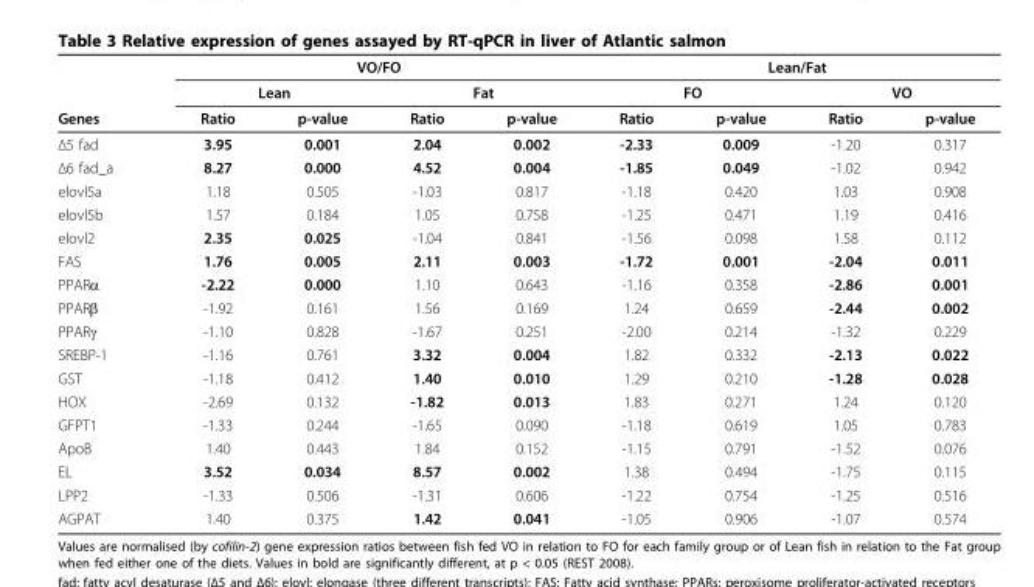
<table><thead><tr><td rowspan="3">Genes</td><td colspan="4">VO/FO</td><td colspan="4">Lean/Fat</td></tr><tr><td colspan="2">Lean</td><td colspan="2">Fat</td><td colspan="2">FO</td><td colspan="2">VO</td></tr><tr><td>Ratio</td><td>p-value</td><td>Ratio</td><td>p-value</td><td>Ratio</td><td>p-value</td><td>Ratio</td><td>p-value</td></tr></thead><tbody><tr><td>Δ5 fad</td><td>3.95</td><td>0.001</td><td>2.04</td><td>0.002</td><td>-2.33</td><td>0.009</td><td>-1.20</td><td>0.317</td></tr><tr><td>Δ6 fad_a</td><td>8.27</td><td>0.000</td><td>4.52</td><td>0.004</td><td>-1.85</td><td>0.049</td><td>-1.02</td><td>0.942</td></tr><tr><td>elovl5a</td><td>1.18</td><td>0.505</td><td>-1.03</td><td>0.817</td><td>-1.18</td><td>0.420</td><td>1.03</td><td>0.908</td></tr><tr><td>elovl5b</td><td>1.57</td><td>0.184</td><td>1.05</td><td>0.758</td><td>-1.25</td><td>0.471</td><td>1.19</td><td>0.416</td></tr><tr><td>elovl2</td><td>2.35</td><td>0.025</td><td>-1.04</td><td>0.841</td><td>-1.56</td><td>0.098</td><td>1.58</td><td>0.112</td></tr><tr><td>FAS</td><td>1.76</td><td>0.005</td><td>2.11</td><td>0.003</td><td>-1.72</td><td>0.001</td><td>-2.04</td><td>0.011</td></tr><tr><td>PPARα</td><td>-2.22</td><td>0.000</td><td>1.10</td><td>0.643</td><td>-1.16</td><td>0.358</td><td>-2.86</td><td>0.001</td></tr><tr><td>PPARβ</td><td>-1.92</td><td>0.161</td><td>1.56</td><td>0.169</td><td>1.24</td><td>0.659</td><td>-2.44</td><td>0.002</td></tr><tr><td>PPARγ</td><td>-1.10</td><td>0.828</td><td>-1.67</td><td>0.251</td><td>-2.00</td><td>0.214</td><td>-1.32</td><td>0.229</td></tr><tr><td>SREBP-1</td><td>-1.16</td><td>0.761</td><td>3.32</td><td>0.004</td><td>1.82</td><td>0.332</td><td>-2.13</td><td>0.022</td></tr><tr><td>GST</td><td>-1.18</td><td>0.412</td><td>1.40</td><td>0.010</td><td>1.29</td><td>0.210</td><td>-1.28</td><td>0.028</td></tr><tr><td>HOX</td><td>-2.69</td><td>0.132</td><td>-1.82</td><td>0.013</td><td>1.83</td><td>0.271</td><td>1.24</td><td>0.120</td></tr><tr><td>GFPT1</td><td>-1.33</td><td>0.244</td><td>-1.65</td><td>0.090</td><td>-1.18</td><td>0.619</td><td>1.05</td><td>0.783</td></tr><tr><td>ApoB</td><td>1.40</td><td>0.443</td><td>1.84</td><td>0.152</td><td>-1.15</td><td>0.791</td><td>-1.52</td><td>0.076</td></tr><tr><td>EL</td><td>3.52</td><td>0.034</td><td>8.57</td><td>0.002</td><td>1.38</td><td>0.494</td><td>-1.75</td><td>0.115</td></tr><tr><td>LPP2</td><td>-1.33</td><td>0.506</td><td>-1.31</td><td>0.606</td><td>-1.22</td><td>0.754</td><td>-1.25</td><td>0.516</td></tr><tr><td>AGPAT</td><td>1.40</td><td>0.375</td><td>1.42</td><td>0.041</td><td>-1.05</td><td>0.906</td><td>-1.07</td><td>0.574</td></tr></tbody></table>